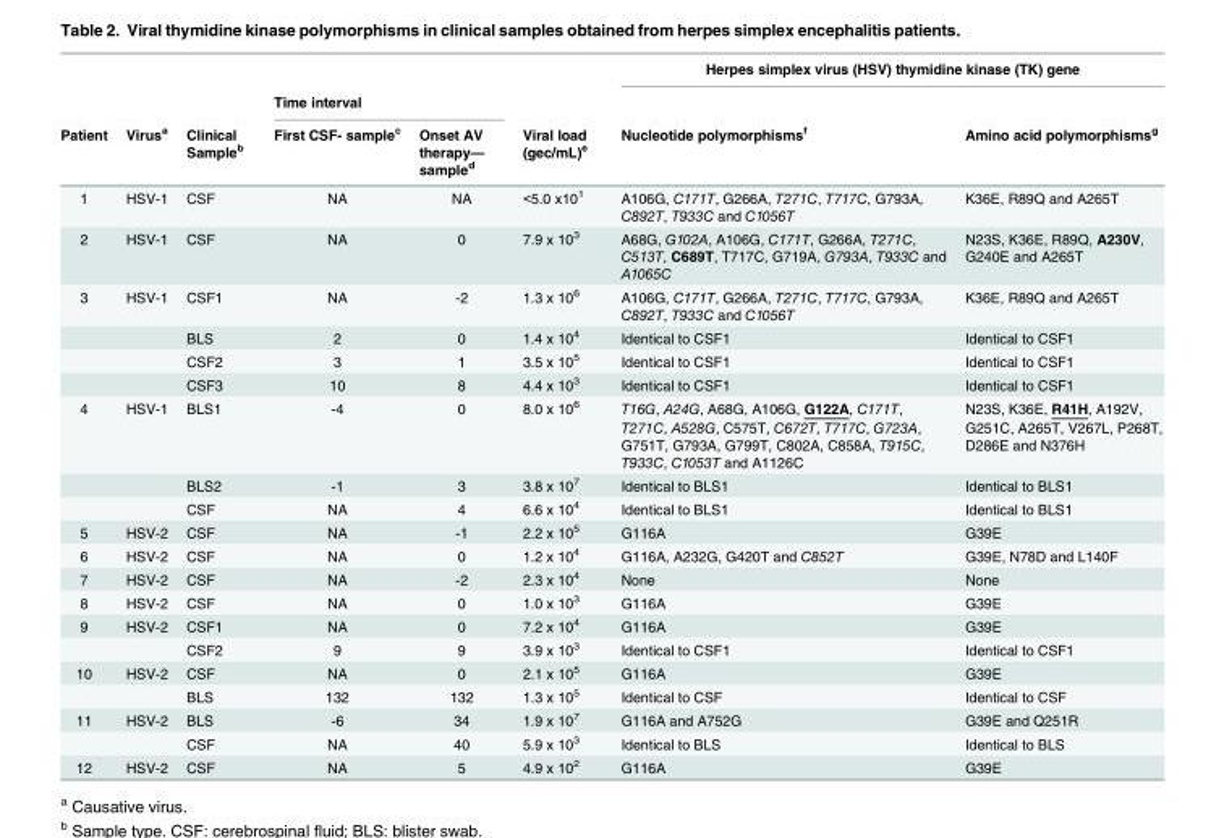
<table><thead><tr><td rowspan="3">Patient</td><td rowspan="3">Virus<sup>a</sup></td><td rowspan="3">Clinical Sample<sup>b</sup></td><td></td><td></td><td rowspan="3">Viral load (gec/mL)<sup>e</sup></td><td colspan="2">Herpes simplex virus (HSV) thymidine kinase (TK) gene</td></tr><tr><td colspan="2">Time interval</td><td rowspan="2">Nucleotide polymorphisms<sup>f</sup></td><td rowspan="2">Amino acid polymorphisms<sup>g</sup></td></tr><tr><td>First CSF- sample<sup>c</sup></td><td>Onset AV therapy— sample<sup>d</sup></td></tr></thead><tbody><tr><td>1</td><td>HSV-1</td><td>CSF</td><td>NA</td><td>NA</td><td>&lt;5.0 x10<sup>1</sup></td><td>A106G, C171T, G266A, T271C, T717C, G793A, C892T, T933C and C1056T</td><td>K36E, R89Q and A265T</td></tr><tr><td>2</td><td>HSV-1</td><td>CSF</td><td>NA</td><td>0</td><td>7.9 x 10<sup>3</sup></td><td>A68G, G102A, A106G, C171T, G266A, T271C, C513T, C689T, T717C, G719A, G793A, T933C and A1065C</td><td>N23S, K36E, R89Q, A230V, G240E and A265T</td></tr><tr><td rowspan="4">3</td><td>HSV-1</td><td>CSF1</td><td>NA</td><td>-2</td><td>1.3 x 10<sup>6</sup></td><td>A106G, C171T, G266A, T271C, T717C, G793A, C892T, T933C and C1056T</td><td>K36E, R89Q and A265T</td></tr><tr><td></td><td>BLS</td><td>2</td><td>0</td><td>1.4 x 10<sup>4</sup></td><td>Identical to CSF1</td><td>Identical to CSF1</td></tr><tr><td></td><td>CSF2</td><td>3</td><td>1</td><td>3.5 x 10<sup>5</sup></td><td>Identical to CSF1</td><td>Identical to CSF1</td></tr><tr><td></td><td>CSF3</td><td>10</td><td>8</td><td>4.4 x 10<sup>3</sup></td><td>Identical to CSF1</td><td>Identical to CSF1</td></tr><tr><td rowspan="3">4</td><td>HSV-1</td><td>BLS1</td><td>-4</td><td>0</td><td>8.0 x 10<sup>6</sup></td><td>T16G, A24G, A68G, A106G, G122A, C171T, T271C, A528G, C575T, C672T, T717C, G723A, G751T, G793A, G799T, C802A, C858A, T915C, T933C, C1053T and A1126C</td><td>N23S, K36E, R41H, A192V, G251C, A265T, V267L, P268T, D286E and N376H</td></tr><tr><td></td><td>BLS2</td><td>-1</td><td>3</td><td>3.8 x 10<sup>7</sup></td><td>Identical to BLS1</td><td>Identical to BLS1</td></tr><tr><td></td><td>CSF</td><td>NA</td><td>4</td><td>6.6 x 10<sup>4</sup></td><td>Identical to BLS1</td><td>Identical to BLS1</td></tr><tr><td>5</td><td>HSV-2</td><td>CSF</td><td>NA</td><td>-1</td><td>2.2 x 10<sup>5</sup></td><td>G116A</td><td>G39E</td></tr><tr><td>6</td><td>HSV-2</td><td>CSF</td><td>NA</td><td>0</td><td>1.2 x 10<sup>4</sup></td><td>G116A, A232G, G420T and C852T</td><td>G39E, N78D and L140F</td></tr><tr><td>7</td><td>HSV-2</td><td>CSF</td><td>NA</td><td>-2</td><td>2.3 x 10<sup>4</sup></td><td>None</td><td>None</td></tr><tr><td>8</td><td>HSV-2</td><td>CSF</td><td>NA</td><td>0</td><td>1.0 x 10<sup>3</sup></td><td>G116A</td><td>G39E</td></tr><tr><td rowspan="2">9</td><td>HSV-2</td><td>CSF1</td><td>NA</td><td>0</td><td>7.2 x 10<sup>4</sup></td><td>G116A</td><td>G39E</td></tr><tr><td></td><td>CSF2</td><td>9</td><td>9</td><td>3.9 x 10<sup>3</sup></td><td>Identical to CSF1</td><td>Identical to CSF1</td></tr><tr><td rowspan="2">10</td><td>HSV-2</td><td>CSF</td><td>NA</td><td>0</td><td>2.1 x 10<sup>5</sup></td><td>G116A</td><td>G39E</td></tr><tr><td></td><td>BLS</td><td>132</td><td>132</td><td>1.3 x 10<sup>5</sup></td><td>Identical to CSF</td><td>Identical to CSF</td></tr><tr><td rowspan="2">11</td><td>HSV-2</td><td>BLS</td><td>-6</td><td>34</td><td>1.9 x 10<sup>7</sup></td><td>G116A and A752G</td><td>G39E and Q251R</td></tr><tr><td></td><td>CSF</td><td>NA</td><td>40</td><td>5.9 x 10<sup>3</sup></td><td>Identical to BLS</td><td>Identical to BLS</td></tr><tr><td>12</td><td>HSV-2</td><td>CSF</td><td>NA</td><td>5</td><td>4.9 x 10<sup>2</sup></td><td>G116A</td><td>G39E</td></tr></tbody></table>